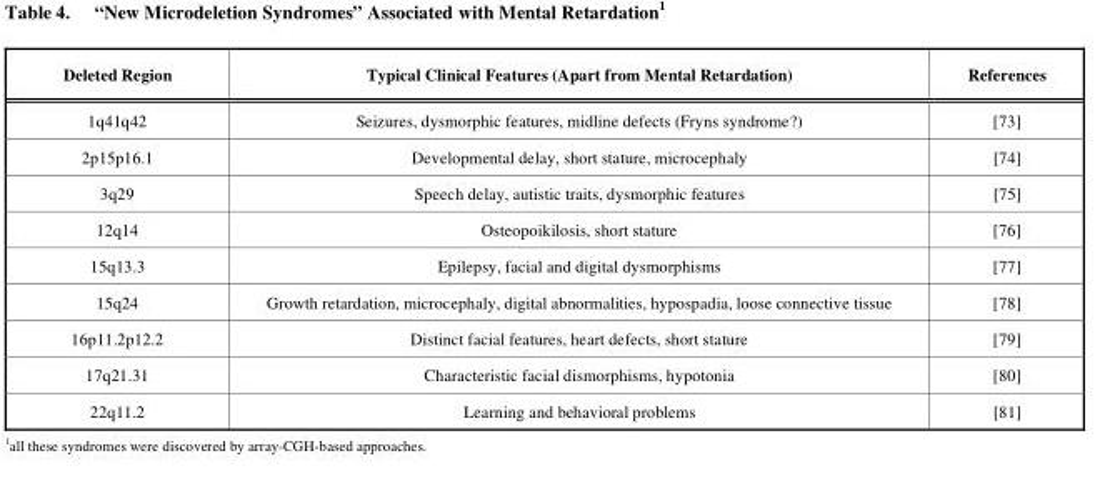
<table><thead><tr><td>Deleted Region</td><td>Typical Clinical Features (Apart from Mental Retardation)</td><td>References</td></tr></thead><tbody><tr><td>1q41q42</td><td>Seizures, dysmorphic features, midline defects (Fryns syndrome?)</td><td>[73]</td></tr><tr><td>2p15p16.1</td><td>Developmental delay, short stature, microcephaly</td><td>[74]</td></tr><tr><td>3q29</td><td>Speech delay, autistic traits, dysmorphic features</td><td>[75]</td></tr><tr><td>12q14</td><td>Osteopoikilosis, short stature</td><td>[76]</td></tr><tr><td>15q13.3</td><td>Epilepsy, facial and digital dysmorphisms</td><td>[77]</td></tr><tr><td>15q24</td><td>Growth retardation, microcephaly, digital abnormalities, hypospadia, loose connective tissue</td><td>[78]</td></tr><tr><td>16p11.2p12.2</td><td>Distinct facial features, heart defects, short stature</td><td>[79]</td></tr><tr><td>17q21.31</td><td>Characteristic facial dismorphisms, hypotonia</td><td>[80]</td></tr><tr><td>22q11.2</td><td>Learning and behavioral problems</td><td>[81]</td></tr></tbody></table>